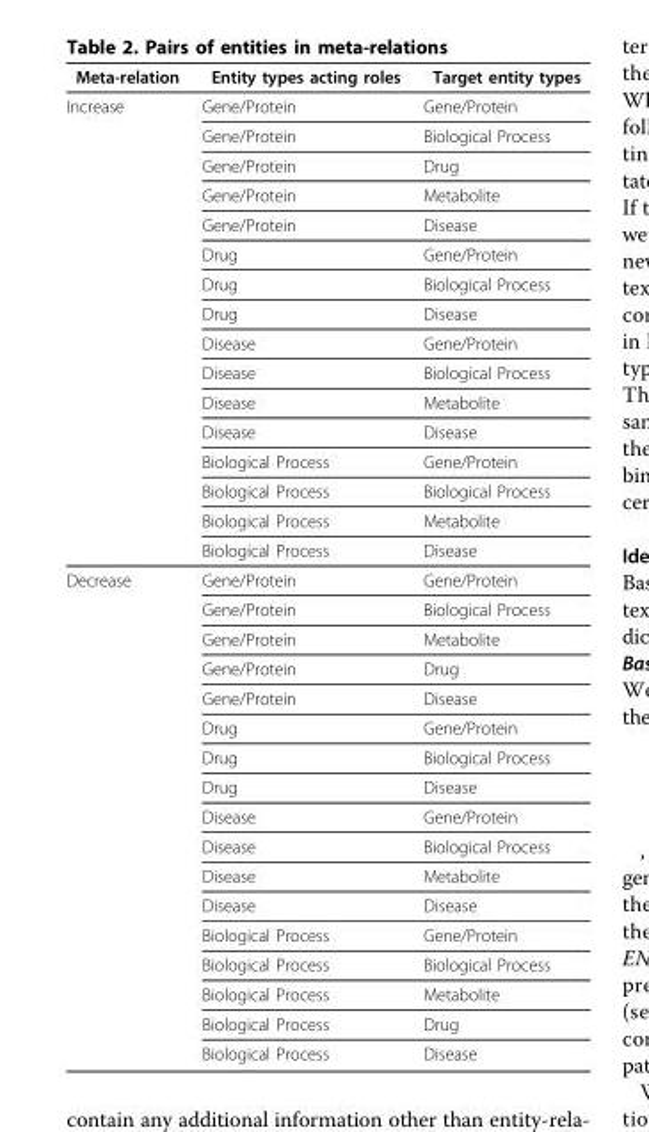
<table><thead><tr><td>Meta-relation</td><td>Entity types acting roles</td><td>Target entity types</td></tr></thead><tbody><tr><td rowspan="16">Increase</td><td>Gene/Protein</td><td>Gene/Protein</td></tr><tr><td>Gene/Protein</td><td>Biological Process</td></tr><tr><td>Gene/Protein</td><td>Drug</td></tr><tr><td>Gene/Protein</td><td>Metabolite</td></tr><tr><td>Gene/Protein</td><td>Disease</td></tr><tr><td>Drug</td><td>Gene/Protein</td></tr><tr><td>Drug</td><td>Biological Process</td></tr><tr><td>Drug</td><td>Disease</td></tr><tr><td>Disease</td><td>Gene/Protein</td></tr><tr><td>Disease</td><td>Biological Process</td></tr><tr><td>Disease</td><td>Metabolite</td></tr><tr><td>Disease</td><td>Disease</td></tr><tr><td>Biological Process</td><td>Gene/Protein</td></tr><tr><td>Biological Process</td><td>Biological Process</td></tr><tr><td>Biological Process</td><td>Metabolite</td></tr><tr><td>Biological Process</td><td>Disease</td></tr><tr><td rowspan="17">Decrease</td><td>Gene/Protein</td><td>Gene/Protein</td></tr><tr><td>Gene/Protein</td><td>Biological Process</td></tr><tr><td>Gene/Protein</td><td>Metabolite</td></tr><tr><td>Gene/Protein</td><td>Drug</td></tr><tr><td>Gene/Protein</td><td>Disease</td></tr><tr><td>Drug</td><td>Gene/Protein</td></tr><tr><td>Drug</td><td>Biological Process</td></tr><tr><td>Drug</td><td>Disease</td></tr><tr><td>Disease</td><td>Gene/Protein</td></tr><tr><td>Disease</td><td>Biological Process</td></tr><tr><td>Disease</td><td>Metabolite</td></tr><tr><td>Disease</td><td>Disease</td></tr><tr><td>Biological Process</td><td>Gene/Protein</td></tr><tr><td>Biological Process</td><td>Biological Process</td></tr><tr><td>Biological Process</td><td>Metabolite</td></tr><tr><td>Biological Process</td><td>Drug</td></tr><tr><td>Biological Process</td><td>Disease</td></tr></tbody></table>